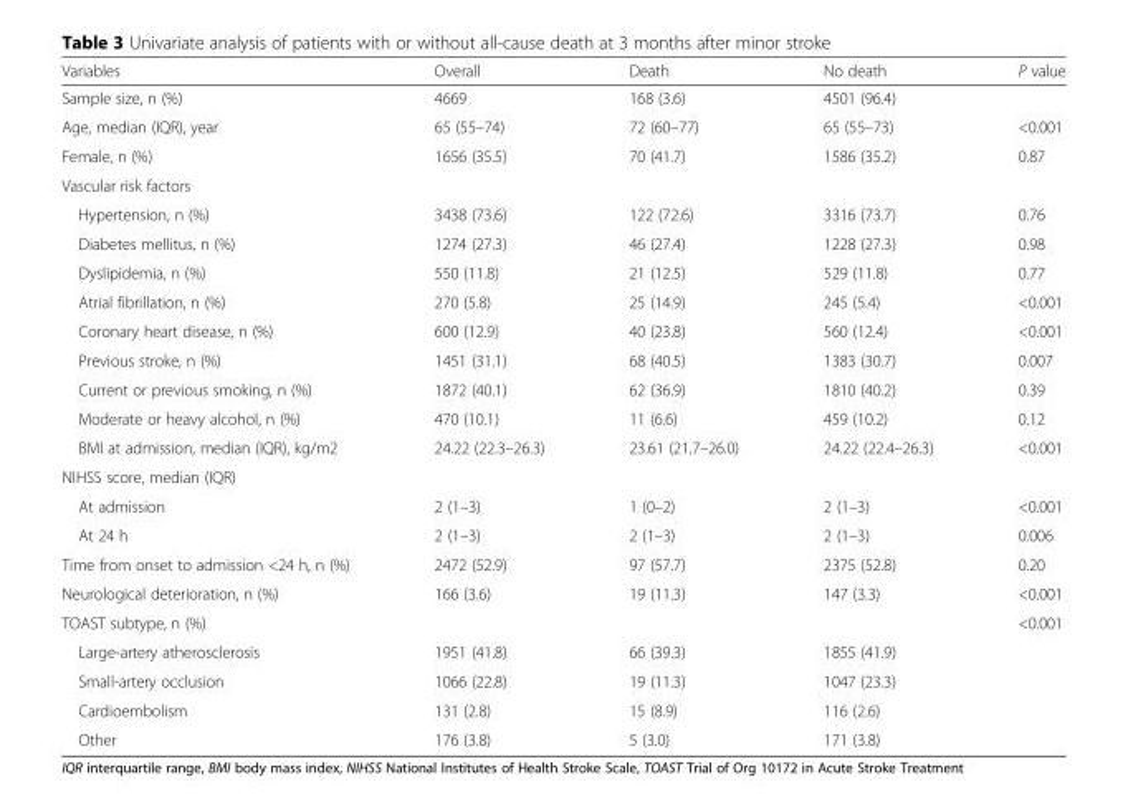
<table><thead><tr><td>Variables</td><td>Overall</td><td>Death</td><td>No death</td><td>P value</td></tr></thead><tbody><tr><td>Sample size, n (%)</td><td>4669</td><td>168 (3.6)</td><td>4501 (96.4)</td><td></td></tr><tr><td>Age, median (IQR), year</td><td>65 (55–74)</td><td>72 (60–77)</td><td>65 (55–73)</td><td>&lt;0.001</td></tr><tr><td>Female, n (%)</td><td>1656 (35.5)</td><td>70 (41.7)</td><td>1586 (35.2)</td><td>0.87</td></tr><tr><td colspan="5">Vascular risk factors</td></tr><tr><td>Hypertension, n (%)</td><td>3438 (73.6)</td><td>122 (72.6)</td><td>3316 (73.7)</td><td>0.76</td></tr><tr><td>Diabetes mellitus, n (%)</td><td>1274 (27.3)</td><td>46 (27.4)</td><td>1228 (27.3)</td><td>0.98</td></tr><tr><td>Dyslipidemia, n (%)</td><td>550 (11.8)</td><td>21 (12.5)</td><td>529 (11.8)</td><td>0.77</td></tr><tr><td>Atrial fibrillation, n (%)</td><td>270 (5.8)</td><td>25 (14.9)</td><td>245 (5.4)</td><td>&lt;0.001</td></tr><tr><td>Coronary heart disease, n (%)</td><td>600 (12.9)</td><td>40 (23.8)</td><td>560 (12.4)</td><td>&lt;0.001</td></tr><tr><td>Previous stroke, n (%)</td><td>1451 (31.1)</td><td>68 (40.5)</td><td>1383 (30.7)</td><td>0.007</td></tr><tr><td>Current or previous smoking, n (%)</td><td>1872 (40.1)</td><td>62 (36.9)</td><td>1810 (40.2)</td><td>0.39</td></tr><tr><td>Moderate or heavy alcohol, n (%)</td><td>470 (10.1)</td><td>11 (6.6)</td><td>459 (10.2)</td><td>0.12</td></tr><tr><td>BMI at admission, median (IQR), kg/m2</td><td>24.22 (22.3–26.3)</td><td>23.61 (21.7–26.0)</td><td>24.22 (22.4–26.3)</td><td>&lt;0.001</td></tr><tr><td colspan="5">NIHSS score, median (IQR)</td></tr><tr><td>At admission</td><td>2 (1–3)</td><td>1 (0–2)</td><td>2 (1–3)</td><td>&lt;0.001</td></tr><tr><td>At 24 h</td><td>2 (1–3)</td><td>2 (1–3)</td><td>2 (1–3)</td><td>0.006</td></tr><tr><td>Time from onset to admission &lt;24 h, n (%)</td><td>2472 (52.9)</td><td>97 (57.7)</td><td>2375 (52.8)</td><td>0.20</td></tr><tr><td>Neurological deterioration, n (%)</td><td>166 (3.6)</td><td>19 (11.3)</td><td>147 (3.3)</td><td>&lt;0.001</td></tr><tr><td>TOAST subtype, n (%)</td><td></td><td></td><td></td><td>&lt;0.001</td></tr><tr><td>Large-artery atherosclerosis</td><td>1951 (41.8)</td><td>66 (39.3)</td><td>1855 (41.9)</td><td></td></tr><tr><td>Small-artery occlusion</td><td>1066 (22.8)</td><td>19 (11.3)</td><td>1047 (23.3)</td><td></td></tr><tr><td>Cardioembolism</td><td>131 (2.8)</td><td>15 (8.9)</td><td>116 (2.6)</td><td></td></tr><tr><td>Other</td><td>176 (3.8)</td><td>5 (3.0)</td><td>171 (3.8)</td><td></td></tr></tbody></table>